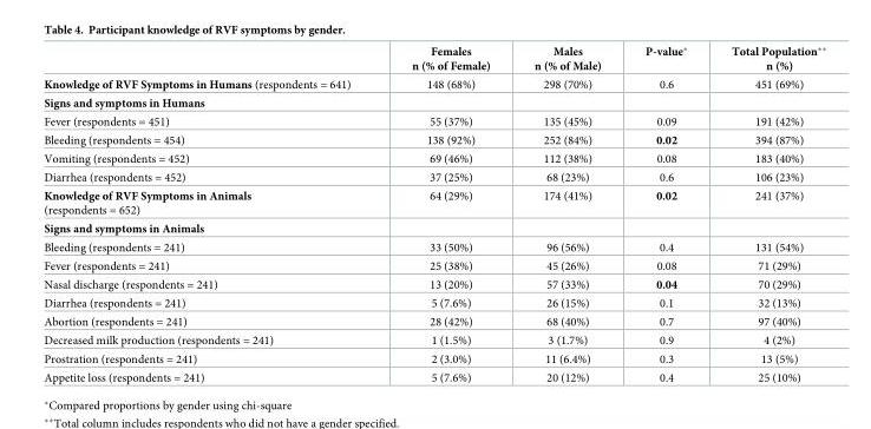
<table><thead><tr><td></td><td>Females n (% of Female)</td><td>Males n (% of Male)</td><td>P-value*</td><td>Total Population** n (%)</td></tr></thead><tbody><tr><td>Knowledge of RVF Symptoms in Humans (respondents = 641)</td><td>148 (68%)</td><td>298 (70%)</td><td>0.6</td><td>451 (69%)</td></tr><tr><td colspan="5">Signs and symptoms in Humans</td></tr><tr><td>Fever (respondents = 451)</td><td>55 (37%)</td><td>135 (45%)</td><td>0.09</td><td>191 (42%)</td></tr><tr><td>Bleeding (respondents = 454)</td><td>138 (92%)</td><td>252 (84%)</td><td>0.02</td><td>394 (87%)</td></tr><tr><td>Vomiting (respondents = 452)</td><td>69 (46%)</td><td>112 (38%)</td><td>0.08</td><td>183 (40%)</td></tr><tr><td>Diarrhea (respondents = 452)</td><td>37 (25%)</td><td>68 (23%)</td><td>0.6</td><td>106 (23%)</td></tr><tr><td>Knowledge of RVF Symptoms in Animals (respondents = 652)</td><td>64 (29%)</td><td>174 (41%)</td><td>0.02</td><td>241 (37%)</td></tr><tr><td colspan="5">Signs and symptoms in Animals</td></tr><tr><td>Bleeding (respondents = 241)</td><td>33 (50%)</td><td>96 (56%)</td><td>0.4</td><td>131 (54%)</td></tr><tr><td>Fever (respondents = 241)</td><td>25 (38%)</td><td>45 (26%)</td><td>0.08</td><td>71 (29%)</td></tr><tr><td>Nasal discharge (respondents = 241)</td><td>13 (20%)</td><td>57 (33%)</td><td>0.04</td><td>70 (29%)</td></tr><tr><td>Diarrhea (respondents = 241)</td><td>5 (7.6%)</td><td>26 (15%)</td><td>0.1</td><td>32 (13%)</td></tr><tr><td>Abortion (respondents = 241)</td><td>28 (42%)</td><td>68 (40%)</td><td>0.7</td><td>97 (40%)</td></tr><tr><td>Decreased milk production (respondents = 241)</td><td>1 (1.5%)</td><td>3 (1.7%)</td><td>0.9</td><td>4 (2%)</td></tr><tr><td>Prostration (respondents = 241)</td><td>2 (3.0%)</td><td>11 (6.4%)</td><td>0.3</td><td>13 (5%)</td></tr><tr><td>Appetite loss (respondents = 241)</td><td>5 (7.6%)</td><td>20 (12%)</td><td>0.4</td><td>25 (10%)</td></tr></tbody></table>